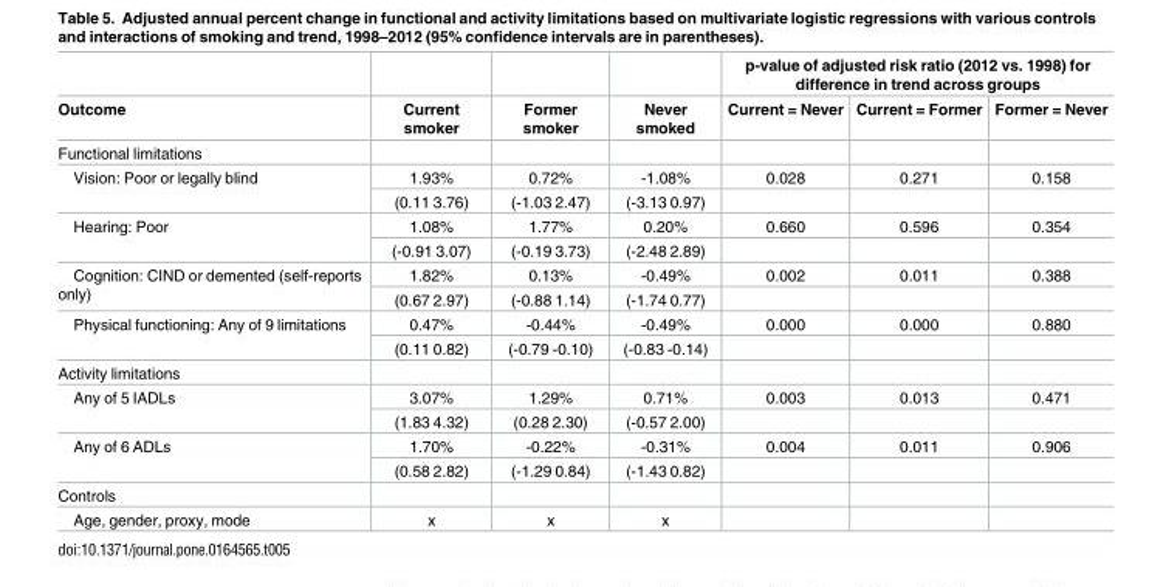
<table><thead><tr><td rowspan="2">Outcome</td><td rowspan="2">Current smoker</td><td rowspan="2">Former smoker</td><td rowspan="2">Never smoked</td><td colspan="3">p-value of adjusted risk ratio (2012 vs. 1998) for difference in trend across groups</td></tr><tr><td>Current = Never</td><td>Current = Former</td><td>Former = Never</td></tr></thead><tbody><tr><td colspan="7">Functional limitations</td></tr><tr><td rowspan="2">Vision: Poor or legally blind</td><td>1.93%</td><td>0.72%</td><td>-1.08%</td><td>0.028</td><td>0.271</td><td>0.158</td></tr><tr><td>(0.11 3.76)</td><td>(-1.03 2.47)</td><td>(-3.13 0.97)</td><td></td><td></td><td></td></tr><tr><td rowspan="2">Hearing: Poor</td><td>1.08%</td><td>1.77%</td><td>0.20%</td><td>0.660</td><td>0.596</td><td>0.354</td></tr><tr><td>(-0.91 3.07)</td><td>(-0.19 3.73)</td><td>(-2.48 2.89)</td><td></td><td></td><td></td></tr><tr><td rowspan="2">Cognition: CIND or demented (self-reports only)</td><td>1.82%</td><td>0.13%</td><td>-0.49%</td><td>0.002</td><td>0.011</td><td>0.388</td></tr><tr><td>(0.67 2.97)</td><td>(-0.88 1.14)</td><td>(-1.74 0.77)</td><td></td><td></td><td></td></tr><tr><td rowspan="2">Physical functioning: Any of 9 limitations</td><td>0.47%</td><td>-0.44%</td><td>-0.49%</td><td>0.000</td><td>0.000</td><td>0.880</td></tr><tr><td>(0.11 0.82)</td><td>(-0.79 -0.10)</td><td>(-0.83 -0.14)</td><td></td><td></td><td></td></tr><tr><td colspan="7">Activity limitations</td></tr><tr><td rowspan="2">Any of 5 IADLs</td><td>3.07%</td><td>1.29%</td><td>0.71%</td><td>0.003</td><td>0.013</td><td>0.471</td></tr><tr><td>(1.83 4.32)</td><td>(0.28 2.30)</td><td>(-0.57 2.00)</td><td></td><td></td><td></td></tr><tr><td rowspan="2">Any of 6 ADLs</td><td>1.70%</td><td>-0.22%</td><td>-0.31%</td><td>0.004</td><td>0.011</td><td>0.906</td></tr><tr><td>(0.58 2.82)</td><td>(-1.29 0.84)</td><td>(-1.43 0.82)</td><td></td><td></td><td></td></tr><tr><td colspan="7">Controls</td></tr><tr><td>Age, gender, proxy, mode</td><td>x</td><td>x</td><td>x</td><td></td><td></td><td></td></tr></tbody></table>